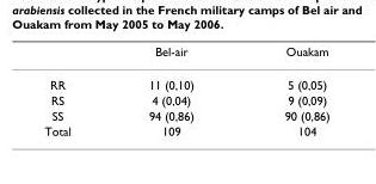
<table><thead><tr><td></td><td>Bel-air</td><td>Ouakam</td></tr></thead><tbody><tr><td>RR</td><td>11 (0,10)</td><td>5 (0,05)</td></tr><tr><td>RS</td><td>4 (0,04)</td><td>9 (0,09)</td></tr><tr><td>SS</td><td>94 (0,86)</td><td>90 (0,86)</td></tr><tr><td>Total</td><td>109</td><td>104</td></tr></tbody></table>